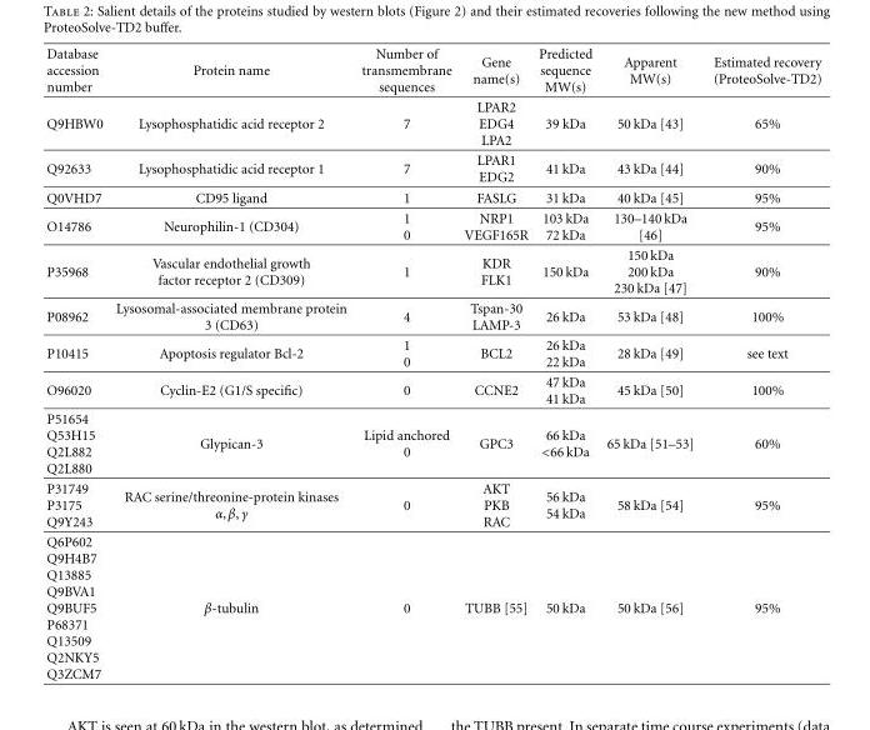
<table><thead><tr><td>Database accession number</td><td>Protein name</td><td>Number of transmembrane sequences</td><td>Gene name(s)</td><td>Predicted sequence MW(s)</td><td>Apparent MW(s)</td><td>Estimated recovery (ProteoSolve-TD2)</td></tr></thead><tbody><tr><td>Q9HBW0</td><td>Lysophosphatidic acid receptor 2</td><td>7</td><td>LPAR2 EDG4 LPA2</td><td>39 kDa</td><td>50 kDa [43]</td><td>65%</td></tr><tr><td>Q92633</td><td>Lysophosphatidic acid receptor 1</td><td>7</td><td>LPAR1 EDG2</td><td>41 kDa</td><td>43 kDa [44]</td><td>90%</td></tr><tr><td>Q0VHD7</td><td>CD95 ligand</td><td>1</td><td>FASLG</td><td>31 kDa</td><td>40 kDa [45]</td><td>95%</td></tr><tr><td>O14786</td><td>Neurophilin-1 (CD304)</td><td>1 0</td><td>NRP1 VEGF165R</td><td>103 kDa 72 kDa</td><td>130–140 kDa [46]</td><td>95%</td></tr><tr><td>P35968</td><td>Vascular endothelial growth factor receptor 2 (CD309)</td><td>1</td><td>KDR FLK1</td><td>150 kDa</td><td>150 kDa 200 kDa 230 kDa [47]</td><td>90%</td></tr><tr><td>P08962</td><td>Lysosomal-associated membrane protein 3 (CD63)</td><td>4</td><td>Tspan-30 LAMP-3</td><td>26 kDa</td><td>53 kDa [48]</td><td>100%</td></tr><tr><td>P10415</td><td>Apoptosis regulator Bcl-2</td><td>1 0</td><td>BCL2</td><td>26 kDa 22 kDa</td><td>28 kDa [49]</td><td>see text</td></tr><tr><td>O96020</td><td>Cyclin-E2 (G1/S specific)</td><td>0</td><td>CCNE2</td><td>47 kDa 41 kDa</td><td>45 kDa [50]</td><td>100%</td></tr><tr><td>P51654 Q53H15 Q2L882 Q2L880</td><td>Glypican-3</td><td>Lipid anchored 0</td><td>GPC3</td><td>66 kDa &lt;66 kDa</td><td>65 kDa [51–53]</td><td>60%</td></tr><tr><td>P31749 P3175 Q9Y243</td><td>RAC serine/threonine-protein kinases α,β,γ</td><td>0</td><td>AKT PKB RAC</td><td>56 kDa 54 kDa</td><td>58 kDa [54]</td><td>95%</td></tr><tr><td>Q6P602 Q9H4B7 Q13885 Q9BVA1 Q9BUF5 P68371 Q13509 Q2NKY5 Q3ZCM7</td><td>β-tubulin</td><td>0</td><td>TUBB [55]</td><td>50 kDa</td><td>50 kDa [56]</td><td>95%</td></tr></tbody></table>